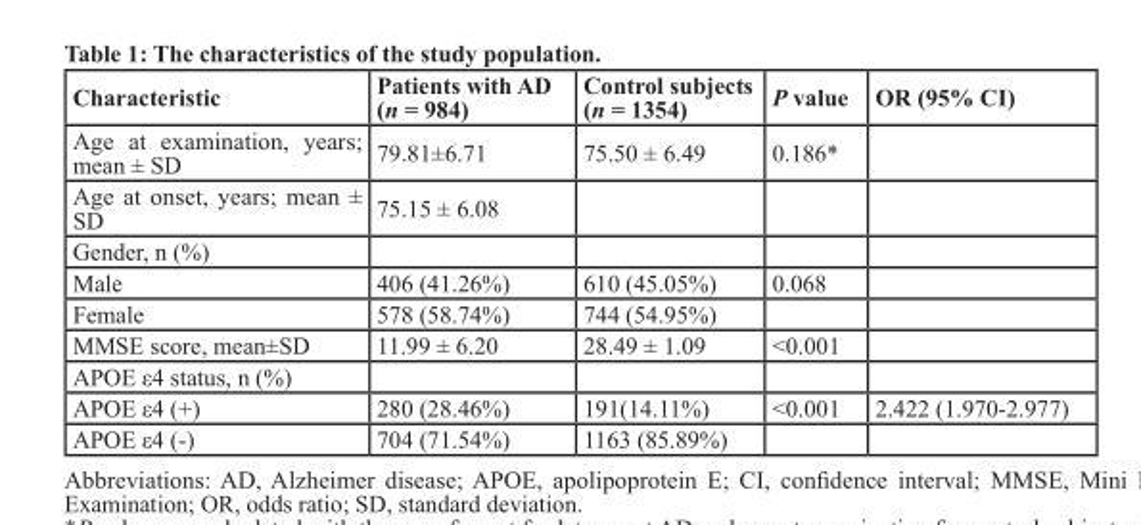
<table><thead><tr><td>Characteristic</td><td>Patients with AD (n = 984)</td><td>Control subjects (n = 1354)</td><td>P value</td><td>OR (95% CI)</td></tr></thead><tbody><tr><td>Age at examination, years; mean ± SD</td><td>79.81±6.71</td><td>75.50 ± 6.49</td><td>0.186*</td><td></td></tr><tr><td>Age at onset, years; mean ± SD</td><td>75.15 ± 6.08</td><td></td><td></td><td></td></tr><tr><td colspan="5">Gender, n (%)</td></tr><tr><td>Male</td><td>406 (41.26%)</td><td>610 (45.05%)</td><td>0.068</td><td></td></tr><tr><td>Female</td><td>578 (58.74%)</td><td>744 (54.95%)</td><td></td><td></td></tr><tr><td>MMSE score, mean±SD</td><td>11.99 ± 6.20</td><td>28.49 ± 1.09</td><td>&lt;0.001</td><td></td></tr><tr><td colspan="5">APOE ε4 status, n (%)</td></tr><tr><td>APOE ε4 (+)</td><td>280 (28.46%)</td><td>191(14.11%)</td><td>&lt;0.001</td><td>2.422 (1.970-2.977)</td></tr><tr><td>APOE ε4 (-)</td><td>704 (71.54%)</td><td>1163 (85.89%)</td><td></td><td></td></tr></tbody></table>